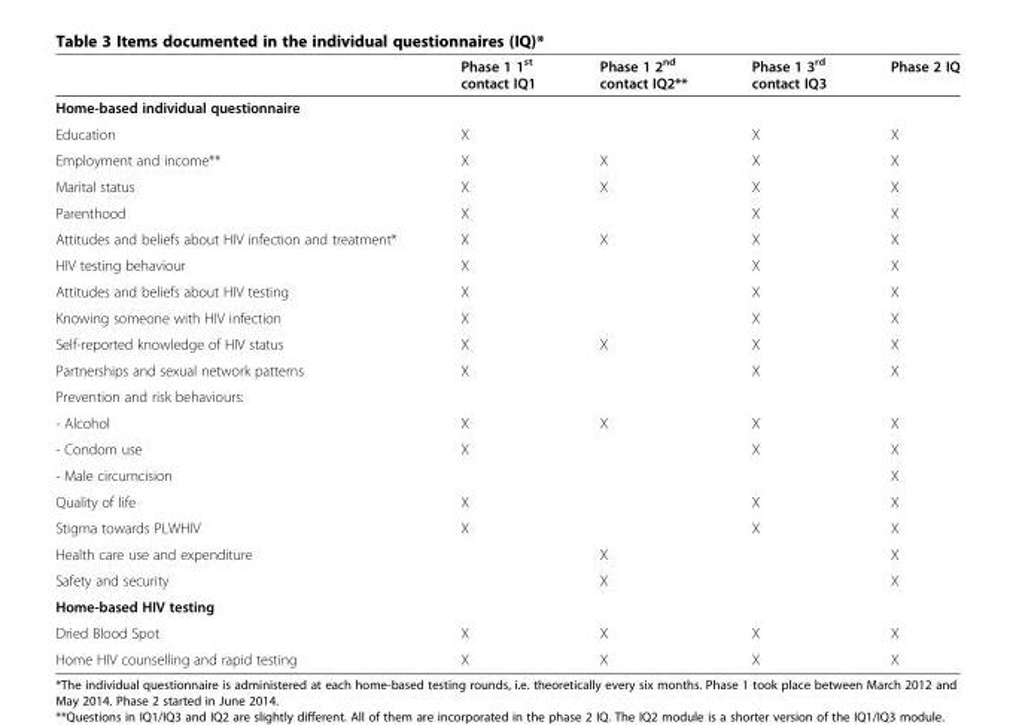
<table><thead><tr><td></td><td>Phase 1 1<sup>st</sup> contact IQ1</td><td>Phase 1 2<sup>nd</sup> contact IQ2**</td><td>Phase 1 3<sup>rd</sup> contact IQ3</td><td>Phase 2 IQ</td></tr></thead><tbody><tr><td colspan="5">Home-based individual questionnaire</td></tr><tr><td>Education</td><td>X</td><td></td><td>X</td><td>X</td></tr><tr><td>Employment and income**</td><td>X</td><td>X</td><td>X</td><td>X</td></tr><tr><td>Marital status</td><td>X</td><td>X</td><td>X</td><td>X</td></tr><tr><td>Parenthood</td><td>X</td><td></td><td>X</td><td>X</td></tr><tr><td>Attitudes and beliefs about HIV infection and treatment*</td><td>X</td><td>X</td><td>X</td><td>X</td></tr><tr><td>HIV testing behaviour</td><td>X</td><td></td><td>X</td><td>X</td></tr><tr><td>Attitudes and beliefs about HIV testing</td><td>X</td><td></td><td>X</td><td>X</td></tr><tr><td>Knowing someone with HIV infection</td><td>X</td><td></td><td>X</td><td>X</td></tr><tr><td>Self-reported knowledge of HIV status</td><td>X</td><td>X</td><td>X</td><td>X</td></tr><tr><td>Partnerships and sexual network patterns</td><td>X</td><td></td><td>X</td><td>X</td></tr><tr><td colspan="5">Prevention and risk behaviours:</td></tr><tr><td>- Alcohol</td><td>X</td><td>X</td><td>X</td><td>X</td></tr><tr><td>- Condom use</td><td>X</td><td></td><td>X</td><td>X</td></tr><tr><td>- Male circumcision</td><td></td><td></td><td></td><td>X</td></tr><tr><td>Quality of life</td><td>X</td><td></td><td>X</td><td>X</td></tr><tr><td>Stigma towards PLWHIV</td><td>X</td><td></td><td>X</td><td>X</td></tr><tr><td>Health care use and expenditure</td><td></td><td>X</td><td></td><td>X</td></tr><tr><td>Safety and security</td><td></td><td>X</td><td></td><td>X</td></tr><tr><td colspan="5">Home-based HIV testing</td></tr><tr><td>Dried Blood Spot</td><td>X</td><td>X</td><td>X</td><td>X</td></tr><tr><td>Home HIV counselling and rapid testing</td><td>X</td><td>X</td><td>X</td><td>X</td></tr></tbody></table>